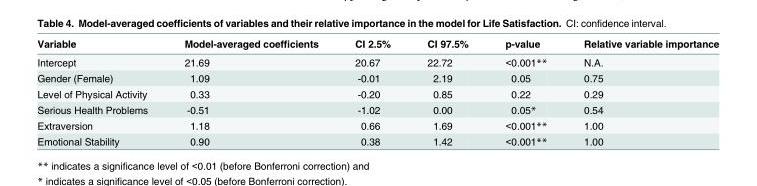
<table><thead><tr><td>Variable</td><td>Model-averaged coefficients</td><td>CI 2.5%</td><td>CI 97.5%</td><td>p-value</td><td>Relative variable importance</td></tr></thead><tbody><tr><td>Intercept</td><td>21.69</td><td>20.67</td><td>22.72</td><td>&lt;0.001**</td><td>N.A.</td></tr><tr><td>Gender (Female)</td><td>1.09</td><td>-0.01</td><td>2.19</td><td>0.05</td><td>0.75</td></tr><tr><td>Level of Physical Activity</td><td>0.33</td><td>-0.20</td><td>0.85</td><td>0.22</td><td>0.29</td></tr><tr><td>Serious Health Problems</td><td>-0.51</td><td>-1.02</td><td>0.00</td><td>0.05*</td><td>0.54</td></tr><tr><td>Extraversion</td><td>1.18</td><td>0.66</td><td>1.69</td><td>&lt;0.001**</td><td>1.00</td></tr><tr><td>Emotional Stability</td><td>0.90</td><td>0.38</td><td>1.42</td><td>&lt;0.001**</td><td>1.00</td></tr></tbody></table>